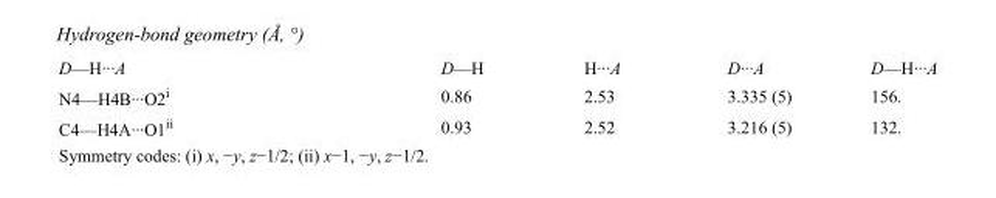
<table><tbody><tr><td>D—H···A</td><td>D—H</td><td>H···A</td><td>D···A</td><td>D—H···A</td></tr><tr><td>N4—H4B···O2<sup>i</sup></td><td>0.86</td><td>2.53</td><td>3.335 (5)</td><td>156.</td></tr><tr><td>C4—H4A···O1<sup>ii</sup></td><td>0.93</td><td>2.52</td><td>3.216 (5)</td><td>132.</td></tr></tbody></table>